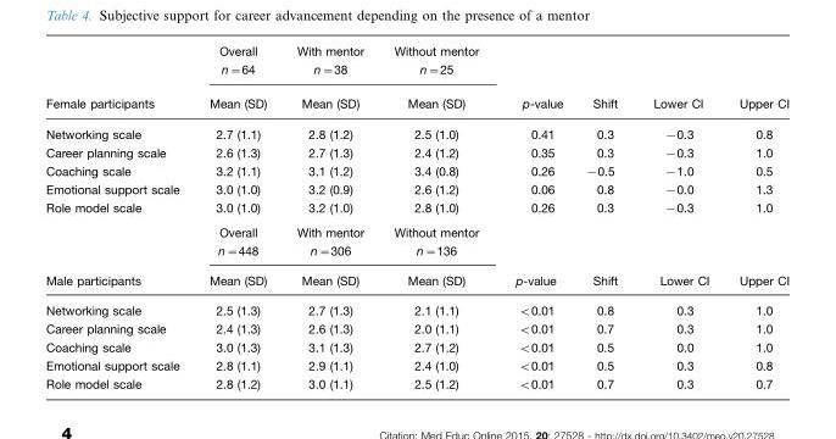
<table><thead><tr><td rowspan="2">Female participants</td><td rowspan="2">Overall n=64 Mean (SD)</td><td rowspan="2">With mentor n=38 Mean (SD)</td><td rowspan="2">Without mentor n=25 Mean (SD)</td><td rowspan="2">p-value</td><td rowspan="2">Shift</td><td rowspan="2">Lower CI</td><td rowspan="2">Upper CI</td></tr><tr></tr></thead><tbody><tr><td>Networking scale</td><td>2.7 (1.1)</td><td>2.8 (1.2)</td><td>2.5 (1.0)</td><td>0.41</td><td>0.3</td><td>−0.3</td><td>0.8</td></tr><tr><td>Career planning scale</td><td>2.6 (1.3)</td><td>2.7 (1.3)</td><td>2.4 (1.2)</td><td>0.35</td><td>0.3</td><td>−0.3</td><td>1.0</td></tr><tr><td>Coaching scale</td><td>3.2 (1.1)</td><td>3.1 (1.2)</td><td>3.4 (0.8)</td><td>0.26</td><td>−0.5</td><td>−1.0</td><td>0.5</td></tr><tr><td>Emotional support scale</td><td>3.0 (1.0)</td><td>3.2 (0.9)</td><td>2.6 (1.2)</td><td>0.06</td><td>0.8</td><td>−0.0</td><td>1.3</td></tr><tr><td rowspan="2">Role model scale</td><td>3.0 (1.0)</td><td>3.2 (1.0)</td><td>2.8 (1.0)</td><td>0.26</td><td>0.3</td><td>−0.3</td><td>1.0</td></tr><tr><td>Overall n=448</td><td>With mentor n=306</td><td>Without mentor n=136</td><td></td><td></td><td></td><td></td></tr><tr><td>Male participants</td><td>Mean (SD)</td><td>Mean (SD)</td><td>Mean (SD)</td><td>p-value</td><td>Shift</td><td>Lower CI</td><td>Upper CI</td></tr><tr><td>Networking scale</td><td>2.5 (1.3)</td><td>2.7 (1.3)</td><td>2.1 (1.1)</td><td>&lt;0.01</td><td>0.8</td><td>0.3</td><td>1.0</td></tr><tr><td>Career planning scale</td><td>2.4 (1.3)</td><td>2.6 (1.3)</td><td>2.0 (1.1)</td><td>&lt;0.01</td><td>0.7</td><td>0.3</td><td>1.0</td></tr><tr><td>Coaching scale</td><td>3.0 (1.3)</td><td>3.1 (1.3)</td><td>2.7 (1.2)</td><td>&lt;0.01</td><td>0.5</td><td>0.0</td><td>1.0</td></tr><tr><td>Emotional support scale</td><td>2.8 (1.1)</td><td>2.9 (1.1)</td><td>2.4 (1.0)</td><td>&lt;0.01</td><td>0.5</td><td>0.3</td><td>0.8</td></tr><tr><td>Role model scale</td><td>2.8 (1.2)</td><td>3.0 (1.1)</td><td>2.5 (1.2)</td><td>&lt;0.01</td><td>0.7</td><td>0.3</td><td>0.7</td></tr></tbody></table>